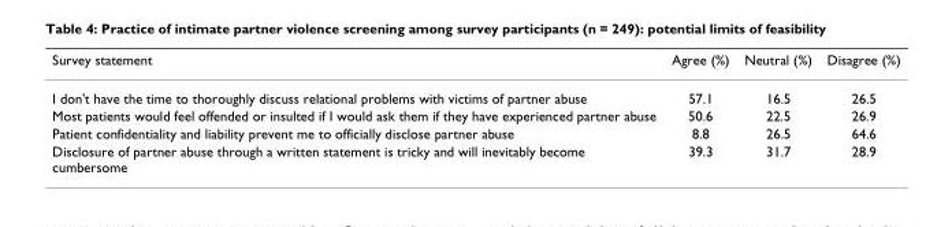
<table><thead><tr><td>Survey statement</td><td>Agree (%)</td><td>Neutral (%)</td><td>Disagree (%)</td></tr></thead><tbody><tr><td>I don&#x27;t have the time to thoroughly discuss relational problems with victims of partner abuse</td><td>57.1</td><td>16.5</td><td>26.5</td></tr><tr><td>Most patients would feel offended or insulted if I would ask them if they have experienced partner abuse</td><td>50.6</td><td>22.5</td><td>26.9</td></tr><tr><td>Patient confidentiality and liability prevent me to officially disclose partner abuse</td><td>8.8</td><td>26.5</td><td>64.6</td></tr><tr><td>Disclosure of partner abuse through a written statement is tricky and will inevitably become cumbersome</td><td>39.3</td><td>31.7</td><td>28.9</td></tr></tbody></table>